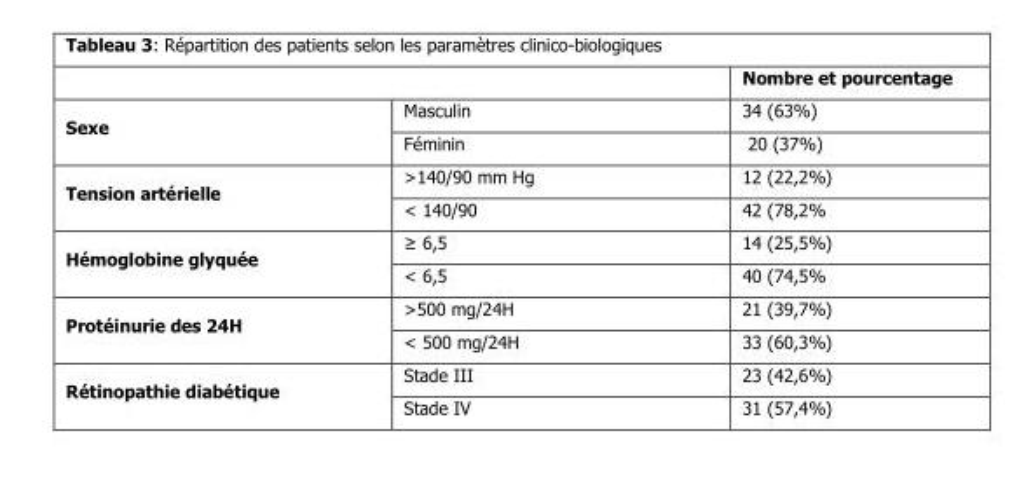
<table><thead><tr><td></td><td></td><td>Nombre et pourcentage</td></tr></thead><tbody><tr><td rowspan="2">Sexe</td><td>Masculin</td><td>34 (63%)</td></tr><tr><td>Féminin</td><td>20 (37%)</td></tr><tr><td rowspan="2">Tension artérielle</td><td>&gt;140/90 mm Hg</td><td>12 (22,2%)</td></tr><tr><td>&lt; 140/90</td><td>42 (78,2%</td></tr><tr><td rowspan="2">Hémoglobine glyquée</td><td>≥ 6,5</td><td>14 (25,5%)</td></tr><tr><td>&lt; 6,5</td><td>40 (74,5%</td></tr><tr><td rowspan="2">Protéinurie des 24H</td><td>&gt;500 mg/24H</td><td>21 (39,7%)</td></tr><tr><td>&lt; 500 mg/24H</td><td>33 (60,3%)</td></tr><tr><td rowspan="2">Rétinopathie diabétique</td><td>Stade III</td><td>23 (42,6%)</td></tr><tr><td>Stade IV</td><td>31 (57,4%)</td></tr></tbody></table>